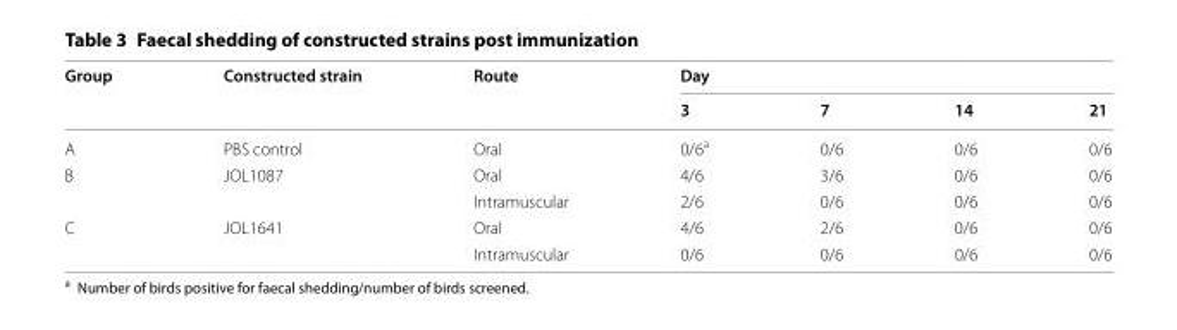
<table><thead><tr><td rowspan="2">Group</td><td rowspan="2">Constructed strain</td><td rowspan="2">Route</td><td colspan="4">Day</td></tr><tr><td>3</td><td>7</td><td>14</td><td>21</td></tr></thead><tbody><tr><td>A</td><td>PBS control</td><td>Oral</td><td>0/6<sup>a</sup></td><td>0/6</td><td>0/6</td><td>0/6</td></tr><tr><td rowspan="2">B</td><td>JOL1087</td><td>Oral</td><td>4/6</td><td>3/6</td><td>0/6</td><td>0/6</td></tr><tr><td></td><td>Intramuscular</td><td>2/6</td><td>0/6</td><td>0/6</td><td>0/6</td></tr><tr><td rowspan="2">C</td><td>JOL1641</td><td>Oral</td><td>4/6</td><td>2/6</td><td>0/6</td><td>0/6</td></tr><tr><td></td><td>Intramuscular</td><td>0/6</td><td>0/6</td><td>0/6</td><td>0/6</td></tr></tbody></table>